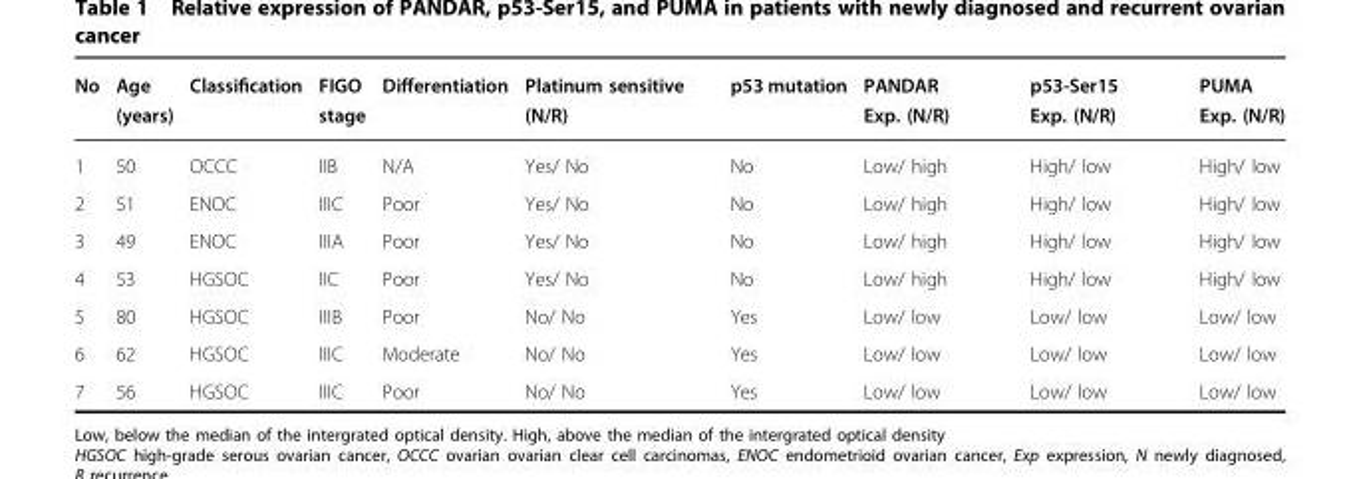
<table><thead><tr><td>No</td><td>Age (years)</td><td>Classification</td><td>FIGO stage</td><td>Differentiation</td><td>Platinum sensitive (N/R)</td><td>p53 mutation</td><td>PANDAR Exp. (N/R)</td><td>p53-Ser15 Exp. (N/R)</td><td>PUMA Exp. (N/R)</td></tr></thead><tbody><tr><td>1</td><td>50</td><td>OCCC</td><td>IIB</td><td>N/A</td><td>Yes/ No</td><td>No</td><td>Low/ high</td><td>High/ low</td><td>High/ low</td></tr><tr><td>2</td><td>51</td><td>ENOC</td><td>IIIC</td><td>Poor</td><td>Yes/ No</td><td>No</td><td>Low/ high</td><td>High/ low</td><td>High/ low</td></tr><tr><td>3</td><td>49</td><td>ENOC</td><td>IIIA</td><td>Poor</td><td>Yes/ No</td><td>No</td><td>Low/ high</td><td>High/ low</td><td>High/ low</td></tr><tr><td>4</td><td>53</td><td>HGSOC</td><td>IIC</td><td>Poor</td><td>Yes/ No</td><td>No</td><td>Low/ high</td><td>High/ low</td><td>High/ low</td></tr><tr><td>5</td><td>80</td><td>HGSOC</td><td>IIIB</td><td>Poor</td><td>No/ No</td><td>Yes</td><td>Low/ low</td><td>Low/ low</td><td>Low/ low</td></tr><tr><td>6</td><td>62</td><td>HGSOC</td><td>IIIC</td><td>Moderate</td><td>No/ No</td><td>Yes</td><td>Low/ low</td><td>Low/ low</td><td>Low/ low</td></tr><tr><td>7</td><td>56</td><td>HGSOC</td><td>IIIC</td><td>Poor</td><td>No/ No</td><td>Yes</td><td>Low/ low</td><td>Low/ low</td><td>Low/ low</td></tr></tbody></table>